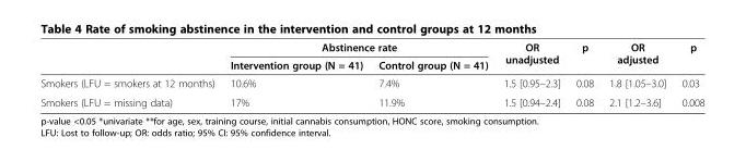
<table><thead><tr><td rowspan="2"></td><td colspan="2">Abstinence rate</td><td rowspan="2">OR unadjusted</td><td rowspan="2">p</td><td rowspan="2">OR adjusted</td><td rowspan="2">p</td></tr><tr><td>Intervention group (N = 41)</td><td>Control group (N = 41)</td></tr></thead><tbody><tr><td>Smokers (LFU = smokers at 12 months)</td><td>10.6%</td><td>7.4%</td><td>1.5 [0.95–2.3]</td><td>0.08</td><td>1.8 [1.05–3.0]</td><td>0.03</td></tr><tr><td>Smokers (LFU = missing data)</td><td>17%</td><td>11.9%</td><td>1.5 [0.94–2.4]</td><td>0.08</td><td>2.1 [1.2–3.6]</td><td>0.008</td></tr></tbody></table>